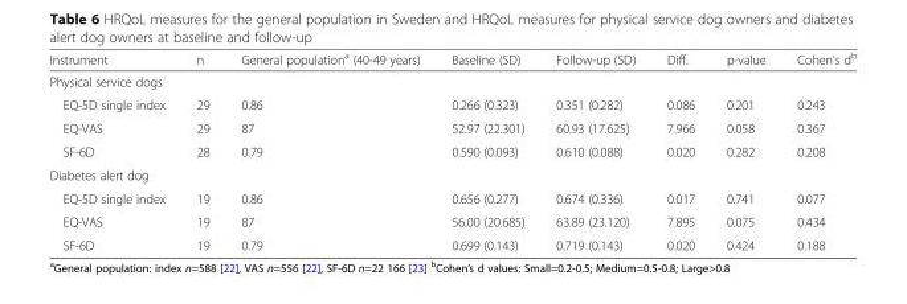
<table><thead><tr><td>Instrument</td><td>n</td><td>General population<sup>a</sup> (40-49 years)</td><td>Baseline (SD)</td><td>Follow-up (SD)</td><td>Diff.</td><td>p-value</td><td>Cohen&#x27;s d<sup>b</sup></td></tr></thead><tbody><tr><td colspan="8">Physical service dogs</td></tr><tr><td>EQ-5D single index</td><td>29</td><td>0.86</td><td>0.266 (0.323)</td><td>0.351 (0.282)</td><td>0.086</td><td>0.201</td><td>0.243</td></tr><tr><td>EQ-VAS</td><td>29</td><td>87</td><td>52.97 (22.301)</td><td>60.93 (17.625)</td><td>7.966</td><td>0.058</td><td>0.367</td></tr><tr><td>SF-6D</td><td>28</td><td>0.79</td><td>0.590 (0.093)</td><td>0.610 (0.088)</td><td>0.020</td><td>0.282</td><td>0.208</td></tr><tr><td colspan="8">Diabetes alert dog</td></tr><tr><td>EQ-5D single index</td><td>19</td><td>0.86</td><td>0.656 (0.277)</td><td>0.674 (0.336)</td><td>0.017</td><td>0.741</td><td>0.077</td></tr><tr><td>EQ-VAS</td><td>19</td><td>87</td><td>56.00 (20.685)</td><td>63.89 (23.120)</td><td>7.895</td><td>0.075</td><td>0.434</td></tr><tr><td>SF-6D</td><td>19</td><td>0.79</td><td>0.699 (0.143)</td><td>0.719 (0.143)</td><td>0.020</td><td>0.424</td><td>0.188</td></tr></tbody></table>